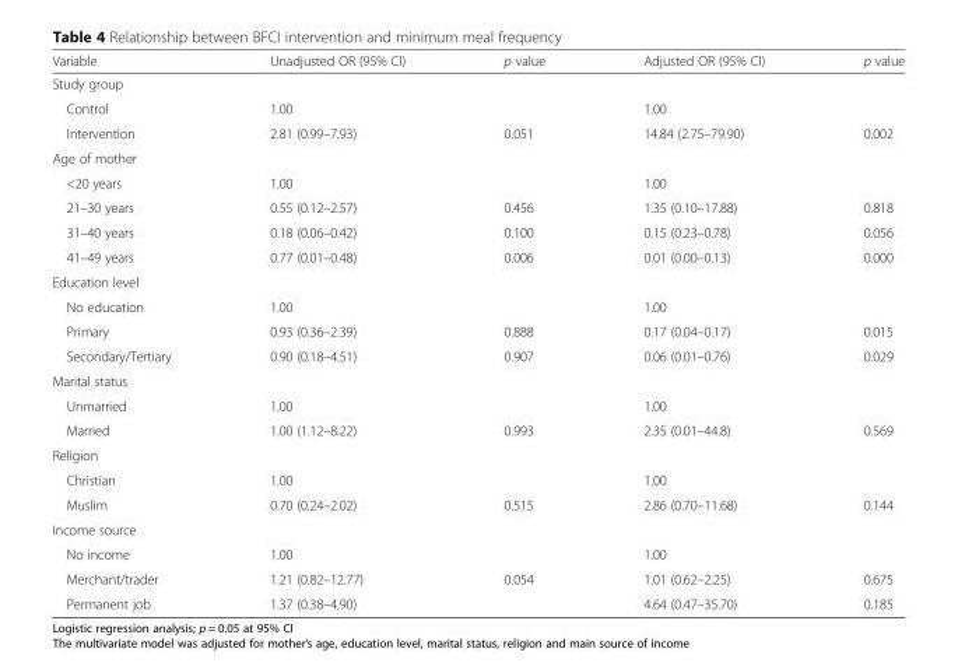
<table><thead><tr><td>Variable</td><td>Unadjusted OR (95% Cl)</td><td>p value</td><td>Adjusted OR (95% Cl)</td><td>p value</td></tr></thead><tbody><tr><td colspan="5">Study group</td></tr><tr><td>Control</td><td>1.00</td><td></td><td>1.00</td><td></td></tr><tr><td>Intervention</td><td>2.81 (0.99–7.93)</td><td>0.051</td><td>14.84 (2.75–79.90)</td><td>0.002</td></tr><tr><td colspan="5">Age of mother</td></tr><tr><td>&lt;20 years</td><td>1.00</td><td></td><td>1.00</td><td></td></tr><tr><td>21–30 years</td><td>0.55 (0.12–2.57)</td><td>0.456</td><td>1.35 (0.10–17.88)</td><td>0.818</td></tr><tr><td>31–40 years</td><td>0.18 (0.06–0.42)</td><td>0.100</td><td>0.15 (0.23–0.78)</td><td>0.056</td></tr><tr><td>41–49 years</td><td>0.77 (0.01–0.48)</td><td>0.006</td><td>0.01 (0.00–0.13)</td><td>0.000</td></tr><tr><td colspan="5">Education level</td></tr><tr><td>No education</td><td>1.00</td><td></td><td>1.00</td><td></td></tr><tr><td>Primary</td><td>0.93 (0.36–2.39)</td><td>0.888</td><td>0.17 (0.04–0.17)</td><td>0.015</td></tr><tr><td>Secondary/Tertiary</td><td>0.90 (0.18–4.51)</td><td>0.907</td><td>0.06 (0.01–0.76)</td><td>0.029</td></tr><tr><td colspan="5">Marital status</td></tr><tr><td>Unmarried</td><td>1.00</td><td></td><td>1.00</td><td></td></tr><tr><td>Married</td><td>1.00 (1.12–8.22)</td><td>0.993</td><td>2.35 (0.01–44.8)</td><td>0.569</td></tr><tr><td colspan="5">Religion</td></tr><tr><td>Christian</td><td>1.00</td><td></td><td>1.00</td><td></td></tr><tr><td>Muslim</td><td>0.70 (0.24–2.02)</td><td>0.515</td><td>2.86 (0.70–11.68)</td><td>0.144</td></tr><tr><td colspan="5">Income source</td></tr><tr><td>No income</td><td>1.00</td><td></td><td>1.00</td><td></td></tr><tr><td>Merchant/trader</td><td>1.21 (0.82–12.77)</td><td>0.054</td><td>1.01 (0.62–2.25)</td><td>0.675</td></tr><tr><td>Permanent job</td><td>1.37 (0.38–4.90)</td><td></td><td>4.64 (0.47–35.70)</td><td>0.185</td></tr></tbody></table>